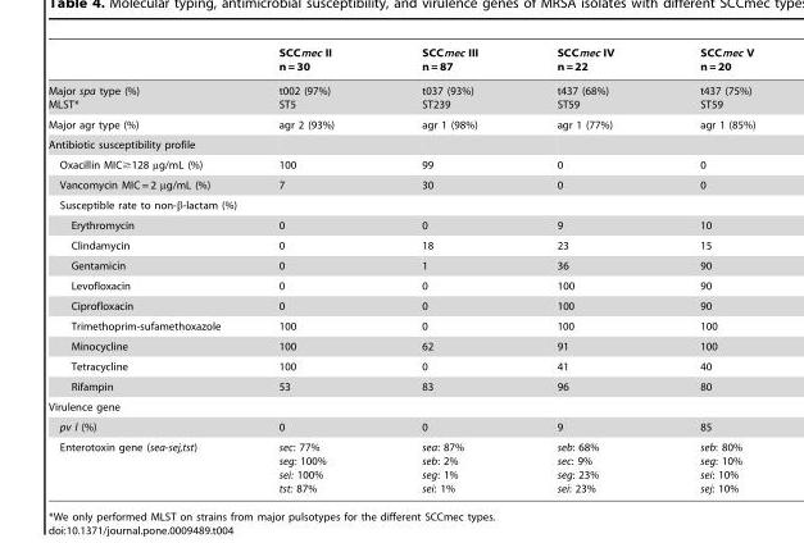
<table><thead><tr><td></td><td>SCCmec II n = 30</td><td>SCCmec III n = 87</td><td>SCCmec IV n = 22</td><td>SCCmec V n = 20</td></tr></thead><tbody><tr><td>Major spa type (%) MLST*</td><td>t002 (97%) ST5</td><td>t037 (93%) ST239</td><td>t437 (68%) ST59</td><td>t437 (75%) ST59</td></tr><tr><td>Major agr type (%)</td><td>agr 2 (93%)</td><td>agr 1 (98%)</td><td>agr 1 (77%)</td><td>agr 1 (85%)</td></tr><tr><td colspan="5">Antibiotic susceptibility profile</td></tr><tr><td>Oxacillin MIC≥128 µg/mL (%)</td><td>100</td><td>99</td><td>0</td><td>0</td></tr><tr><td>Vancomycin MIC = 2 µg/mL (%)</td><td>7</td><td>30</td><td>0</td><td>0</td></tr><tr><td colspan="5">Susceptible rate to non-β-lactam (%)</td></tr><tr><td>Erythromycin</td><td>0</td><td>0</td><td>9</td><td>10</td></tr><tr><td>Clindamycin</td><td>0</td><td>18</td><td>23</td><td>15</td></tr><tr><td>Gentamicin</td><td>0</td><td>1</td><td>36</td><td>90</td></tr><tr><td>Levofloxacin</td><td>0</td><td>0</td><td>100</td><td>90</td></tr><tr><td>Ciprofloxacin</td><td>0</td><td>0</td><td>100</td><td>90</td></tr><tr><td>Trimethoprim-sufamethoxazole</td><td>100</td><td>0</td><td>100</td><td>100</td></tr><tr><td>Minocycline</td><td>100</td><td>62</td><td>91</td><td>100</td></tr><tr><td>Tetracycline</td><td>100</td><td>0</td><td>41</td><td>40</td></tr><tr><td>Rifampin</td><td>53</td><td>83</td><td>96</td><td>80</td></tr><tr><td colspan="5">Virulence gene</td></tr><tr><td>pv l (%)</td><td>0</td><td>0</td><td>9</td><td>85</td></tr><tr><td>Enterotoxin gene (sea-sej,tst)</td><td>sec: 77% seg: 100% sei: 100% tst: 87%</td><td>sea: 87% seb: 2% seg: 1% sei: 1%</td><td>seb: 68% sec: 9% seg: 23% sei: 23%</td><td>seb: 80% seg: 10% sei: 10% sej: 10%</td></tr></tbody></table>